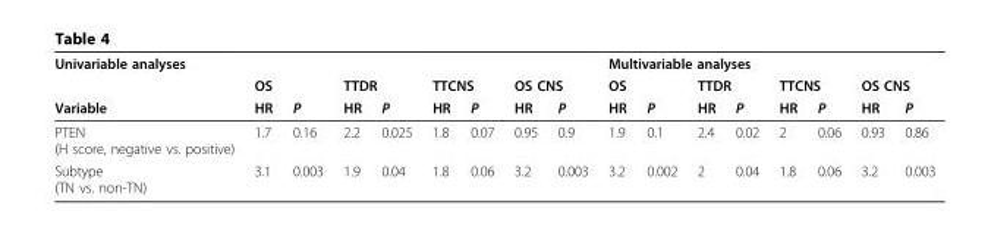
<table><thead><tr><td colspan="9">Univariable analyses</td><td colspan="8">Multivariable analyses</td></tr><tr><td rowspan="2">Variable</td><td colspan="2">OS</td><td colspan="2">TTDR</td><td colspan="2">TTCNS</td><td colspan="2">OS CNS</td><td colspan="2">OS</td><td colspan="2">TTDR</td><td colspan="2">TTCNS</td><td colspan="2">OS CNS</td></tr><tr><td>HR</td><td>P</td><td>HR</td><td>P</td><td>HR</td><td>P</td><td>HR</td><td>P</td><td>HR</td><td>P</td><td>HR</td><td>P</td><td>HR</td><td>P</td><td>HR</td><td>P</td></tr></thead><tbody><tr><td>PTEN (H score, negative vs. positive)</td><td>1.7</td><td>0.16</td><td>2.2</td><td>0.025</td><td>1.8</td><td>0.07</td><td>0.95</td><td>0.9</td><td>1.9</td><td>0.1</td><td>2.4</td><td>0.02</td><td>2</td><td>0.06</td><td>0.93</td><td>0.86</td></tr><tr><td>Subtype (TN vs. non-TN)</td><td>3.1</td><td>0.003</td><td>1.9</td><td>0.04</td><td>1.8</td><td>0.06</td><td>3.2</td><td>0.003</td><td>3.2</td><td>0.002</td><td>2</td><td>0.04</td><td>1.8</td><td>0.06</td><td>3.2</td><td>0.003</td></tr></tbody></table>